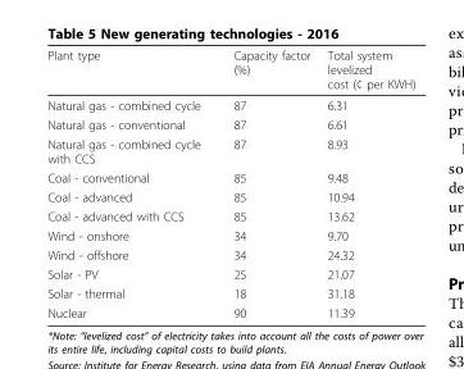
<table><thead><tr><td>Plant type</td><td>Capacity factor (%)</td><td>Total system levelized cost (¢ per KWH)</td></tr></thead><tbody><tr><td>Natural gas - combined cycle</td><td>87</td><td>6.31</td></tr><tr><td>Natural gas - conventional</td><td>87</td><td>6.61</td></tr><tr><td>Natural gas - combined cycle with CCS</td><td>87</td><td>8.93</td></tr><tr><td>Coal - conventional</td><td>85</td><td>9.48</td></tr><tr><td>Coal - advanced</td><td>85</td><td>10.94</td></tr><tr><td>Coal - advanced with CCS</td><td>85</td><td>13.62</td></tr><tr><td>Wind - onshore</td><td>34</td><td>9.70</td></tr><tr><td>Wind - offshore</td><td>34</td><td>24.32</td></tr><tr><td>Solar - PV</td><td>25</td><td>21.07</td></tr><tr><td>Solar - thermal</td><td>18</td><td>31.18</td></tr><tr><td>Nuclear</td><td>90</td><td>11.39</td></tr></tbody></table>